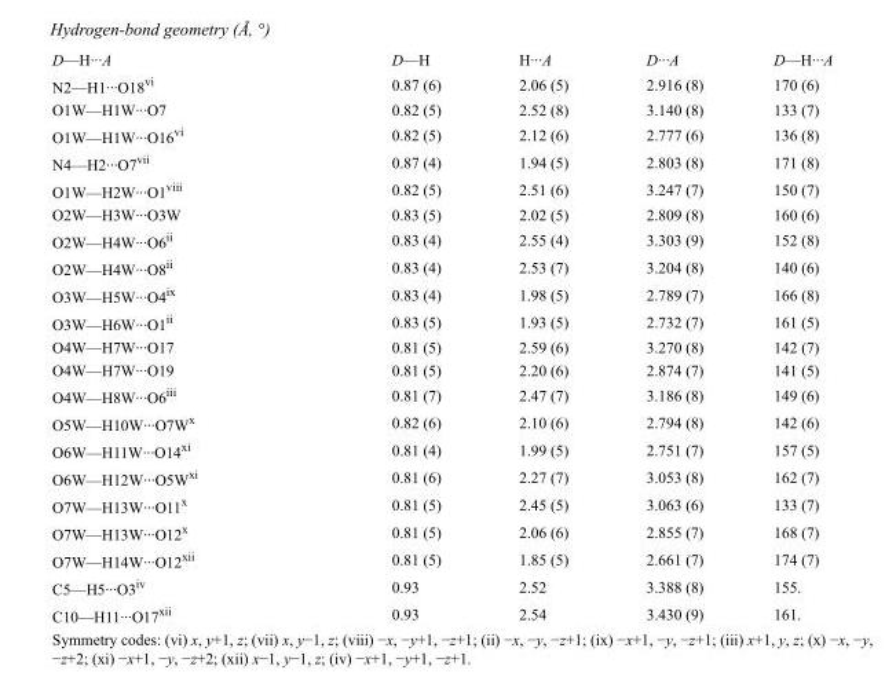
<table><tbody><tr><td>D—H···A</td><td>D—H</td><td>H···A</td><td>D···A</td><td>D—H···A</td></tr><tr><td>N2—H1···O18<sup>vi</sup></td><td>0.87 (6)</td><td>2.06 (5)</td><td>2.916 (8)</td><td>170 (6)</td></tr><tr><td>O1W—H1W···O7</td><td>0.82 (5)</td><td>2.52 (8)</td><td>3.140 (8)</td><td>133 (7)</td></tr><tr><td>O1W—H1W···O16<sup>vi</sup></td><td>0.82 (5)</td><td>2.12 (6)</td><td>2.777 (6)</td><td>136 (8)</td></tr><tr><td>N4—H2···O7<sup>vii</sup></td><td>0.87 (4)</td><td>1.94 (5)</td><td>2.803 (8)</td><td>171 (8)</td></tr><tr><td>O1W—H2W···O1<sup>viii</sup></td><td>0.82 (5)</td><td>2.51 (6)</td><td>3.247 (7)</td><td>150 (7)</td></tr><tr><td>O2W—H3W···O3W</td><td>0.83 (5)</td><td>2.02 (5)</td><td>2.809 (8)</td><td>160 (6)</td></tr><tr><td>O2W—H4W···O6<sup>ii</sup></td><td>0.83 (4)</td><td>2.55 (4)</td><td>3.303 (9)</td><td>152 (8)</td></tr><tr><td>O2W—H4W···O8<sup>ii</sup></td><td>0.83 (4)</td><td>2.53 (7)</td><td>3.204 (8)</td><td>140 (6)</td></tr><tr><td>O3W—H5W···O4<sup>ix</sup></td><td>0.83 (4)</td><td>1.98 (5)</td><td>2.789 (7)</td><td>166 (8)</td></tr><tr><td>O3W—H6W···O1<sup>ii</sup></td><td>0.83 (5)</td><td>1.93 (5)</td><td>2.732 (7)</td><td>161 (5)</td></tr><tr><td>O4W—H7W···O17</td><td>0.81 (5)</td><td>2.59 (6)</td><td>3.270 (8)</td><td>142 (7)</td></tr><tr><td>O4W—H7W···O19</td><td>0.81 (5)</td><td>2.20 (6)</td><td>2.874 (7)</td><td>141 (5)</td></tr><tr><td>O4W—H8W···O6<sup>iii</sup></td><td>0.81 (7)</td><td>2.47 (7)</td><td>3.186 (8)</td><td>149 (6)</td></tr><tr><td>O5W—H10W···O7W<sup>x</sup></td><td>0.82 (6)</td><td>2.10 (6)</td><td>2.794 (8)</td><td>142 (6)</td></tr><tr><td>O6W—H11W···O14<sup>xi</sup></td><td>0.81 (4)</td><td>1.99 (5)</td><td>2.751 (7)</td><td>157 (5)</td></tr><tr><td>O6W—H12W···O5W<sup>xi</sup></td><td>0.81 (6)</td><td>2.27 (7)</td><td>3.053 (8)</td><td>162 (7)</td></tr><tr><td>O7W—H13W···O11<sup>x</sup></td><td>0.81 (5)</td><td>2.45 (5)</td><td>3.063 (6)</td><td>133 (7)</td></tr><tr><td>O7W—H13W···O12<sup>x</sup></td><td>0.81 (5)</td><td>2.06 (6)</td><td>2.855 (7)</td><td>168 (7)</td></tr><tr><td>O7W—H14W···O12<sup>xii</sup></td><td>0.81 (5)</td><td>1.85 (5)</td><td>2.661 (7)</td><td>174 (7)</td></tr><tr><td>C5—H5···O3<sup>iv</sup></td><td>0.93</td><td>2.52</td><td>3.388 (8)</td><td>155.</td></tr><tr><td>C10—H11···O17<sup>xii</sup></td><td>0.93</td><td>2.54</td><td>3.430 (9)</td><td>161.</td></tr></tbody></table>